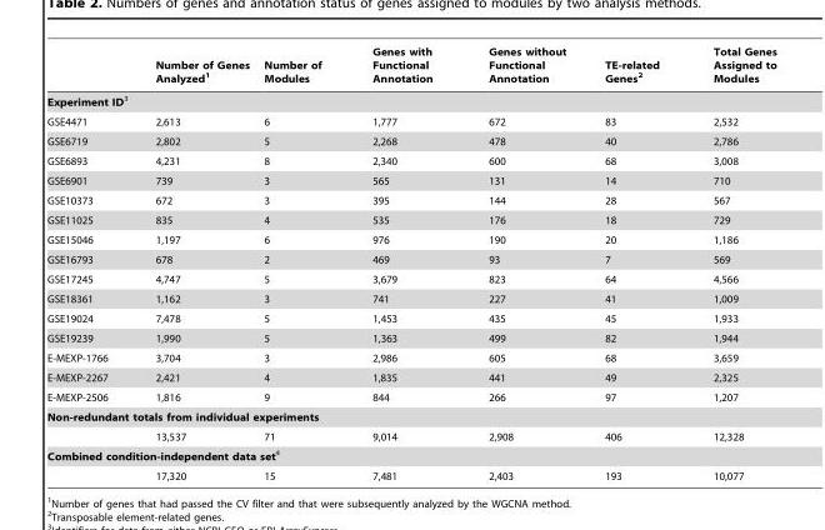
<table><thead><tr><td></td><td>Number of Genes Analyzed<sup>1</sup></td><td>Number of Modules</td><td>Genes with Functional Annotation</td><td>Genes without Functional Annotation</td><td>TE-related Genes<sup>2</sup></td><td>Total Genes Assigned to Modules</td></tr></thead><tbody><tr><td colspan="7">Experiment ID3</td></tr><tr><td>GSE4471</td><td>2,613</td><td>6</td><td>1,777</td><td>672</td><td>83</td><td>2,532</td></tr><tr><td>GSE6719</td><td>2,802</td><td>5</td><td>2,268</td><td>478</td><td>40</td><td>2,786</td></tr><tr><td>GSE6893</td><td>4,231</td><td>8</td><td>2,340</td><td>600</td><td>68</td><td>3,008</td></tr><tr><td>GSE6901</td><td>739</td><td>3</td><td>565</td><td>131</td><td>14</td><td>710</td></tr><tr><td>GSE10373</td><td>672</td><td>3</td><td>395</td><td>144</td><td>28</td><td>567</td></tr><tr><td>GSE11025</td><td>835</td><td>4</td><td>535</td><td>176</td><td>18</td><td>729</td></tr><tr><td>GSE15046</td><td>1,197</td><td>6</td><td>976</td><td>190</td><td>20</td><td>1,186</td></tr><tr><td>GSE16793</td><td>678</td><td>2</td><td>469</td><td>93</td><td>7</td><td>569</td></tr><tr><td>GSE17245</td><td>4,747</td><td>5</td><td>3,679</td><td>823</td><td>64</td><td>4,566</td></tr><tr><td>GSE18361</td><td>1,162</td><td>3</td><td>741</td><td>227</td><td>41</td><td>1,009</td></tr><tr><td>GSE19024</td><td>7,478</td><td>5</td><td>1,453</td><td>435</td><td>45</td><td>1,933</td></tr><tr><td>GSE19239</td><td>1,990</td><td>5</td><td>1,363</td><td>499</td><td>82</td><td>1,944</td></tr><tr><td>E-MEXP-1766</td><td>3,704</td><td>3</td><td>2,986</td><td>605</td><td>68</td><td>3,659</td></tr><tr><td>E-MEXP-2267</td><td>2,421</td><td>4</td><td>1,835</td><td>441</td><td>49</td><td>2,325</td></tr><tr><td>E-MEXP-2506</td><td>1,816</td><td>9</td><td>844</td><td>266</td><td>97</td><td>1,207</td></tr><tr><td colspan="7">Non-redundant totals from individual experiments</td></tr><tr><td></td><td>13,537</td><td>71</td><td>9,014</td><td>2,908</td><td>406</td><td>12,328</td></tr><tr><td colspan="7">Combined condition-independent data set4</td></tr><tr><td></td><td>17,320</td><td>15</td><td>7,481</td><td>2,403</td><td>193</td><td>10,077</td></tr></tbody></table>